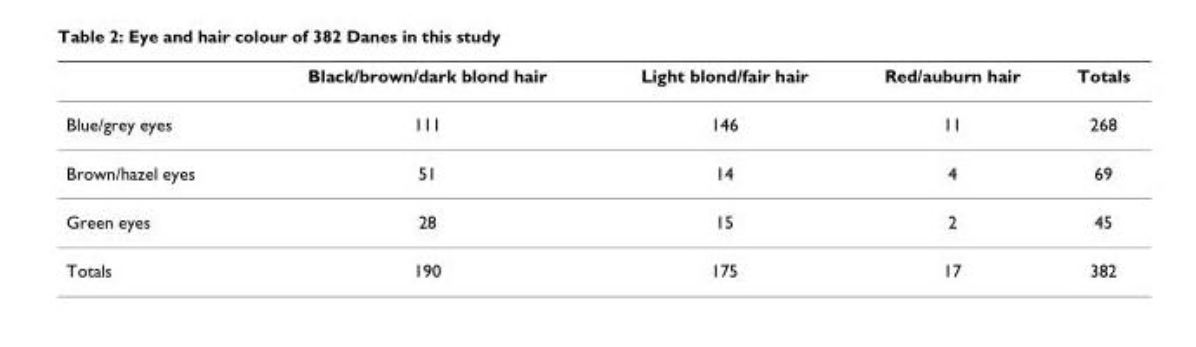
<table><thead><tr><td></td><td>Black/brown/dark blond hair</td><td>Light blond/fair hair</td><td>Red/auburn hair</td><td>Totals</td></tr></thead><tbody><tr><td>Blue/grey eyes</td><td>111</td><td>146</td><td>11</td><td>268</td></tr><tr><td>Brown/hazel eyes</td><td>51</td><td>14</td><td>4</td><td>69</td></tr><tr><td>Green eyes</td><td>28</td><td>15</td><td>2</td><td>45</td></tr><tr><td>Totals</td><td>190</td><td>175</td><td>17</td><td>382</td></tr></tbody></table>